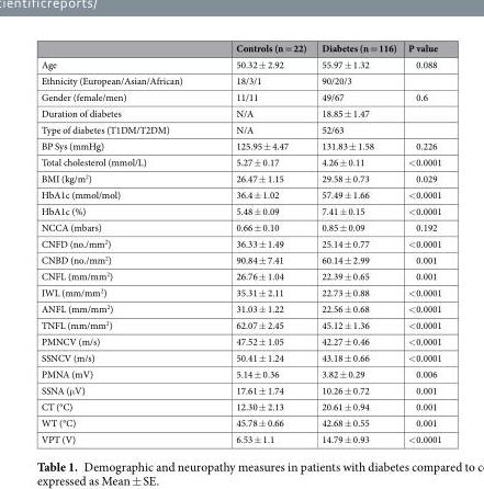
<table><thead><tr><td></td><td>Controls (n = 22)</td><td>Diabetes (n = 116)</td><td>P value</td></tr></thead><tbody><tr><td>Age</td><td>50.32 ± 2.92</td><td>55.97 ± 1.32</td><td>0.088</td></tr><tr><td>Ethnicity (European/Asian/African)</td><td>18/3/1</td><td>90/20/3</td><td></td></tr><tr><td>Gender (female/men)</td><td>11/11</td><td>49/67</td><td>0.6</td></tr><tr><td>Duration of diabetes</td><td>N/A</td><td>18.85 ± 1.47</td><td></td></tr><tr><td>Type of diabetes (T1DM/T2DM)</td><td>N/A</td><td>52/63</td><td></td></tr><tr><td>BP Sys (mmHg)</td><td>125.95 ± 4.47</td><td>131.83 ± 1.58</td><td>0.226</td></tr><tr><td>Total cholesterol (mmol/L)</td><td>5.27 ± 0.17</td><td>4.26 ± 0.11</td><td>&lt;0.0001</td></tr><tr><td>BMI (kg/m<sup>2</sup>)</td><td>26.47 ± 1.15</td><td>29.58 ± 0.73</td><td>0.029</td></tr><tr><td>HbA1c (mmol/mol)</td><td>36.4 ± 1.02</td><td>57.49 ± 1.66</td><td>&lt;0.0001</td></tr><tr><td>HbA1c (%)</td><td>5.48 ± 0.09</td><td>7.41 ± 0.15</td><td>&lt;0.0001</td></tr><tr><td>NCCA (mbars)</td><td>0.66 ± 0.10</td><td>0.85 ± 0.09</td><td>0.192</td></tr><tr><td>CNFD (no./mm<sup>2</sup>)</td><td>36.33 ± 1.49</td><td>25.14 ± 0.77</td><td>&lt;0.0001</td></tr><tr><td>CNBD (no./mm<sup>2</sup>)</td><td>90.84 ± 7.41</td><td>60.14 ± 2.99</td><td>0.001</td></tr><tr><td>CNFL (mm/mm<sup>2</sup>)</td><td>26.76 ± 1.04</td><td>22.39 ± 0.65</td><td>0.001</td></tr><tr><td>IWL (mm/mm<sup>2</sup>)</td><td>35.31 ± 2.11</td><td>22.73 ± 0.88</td><td>&lt;0.0001</td></tr><tr><td>ANFL (mm/mm<sup>2</sup>)</td><td>31.03 ± 1.22</td><td>22.56 ± 0.68</td><td>&lt;0.0001</td></tr><tr><td>TNFL (mm/mm<sup>2</sup>)</td><td>62.07 ± 2.45</td><td>45.12 ± 1.36</td><td>&lt;0.0001</td></tr><tr><td>PMNCV (m/s)</td><td>47.52 ± 1.05</td><td>42.27 ± 0.46</td><td>&lt;0.0001</td></tr><tr><td>SSNCV (m/s)</td><td>50.41 ± 1.24</td><td>43.18 ± 0.66</td><td>&lt;0.0001</td></tr><tr><td>PMNA (mV)</td><td>5.14 ± 0.36</td><td>3.82 ± 0.29</td><td>0.006</td></tr><tr><td>SSNA (μV)</td><td>17.61 ± 1.74</td><td>10.26 ± 0.72</td><td>0.001</td></tr><tr><td>CT (°C)</td><td>12.30 ± 2.13</td><td>20.61 ± 0.94</td><td>0.001</td></tr><tr><td>WT (°C)</td><td>45.78 ± 0.66</td><td>42.68 ± 0.55</td><td>0.001</td></tr><tr><td>VPT (V)</td><td>6.53 ± 1.1</td><td>14.79 ± 0.93</td><td>&lt;0.0001</td></tr></tbody></table>